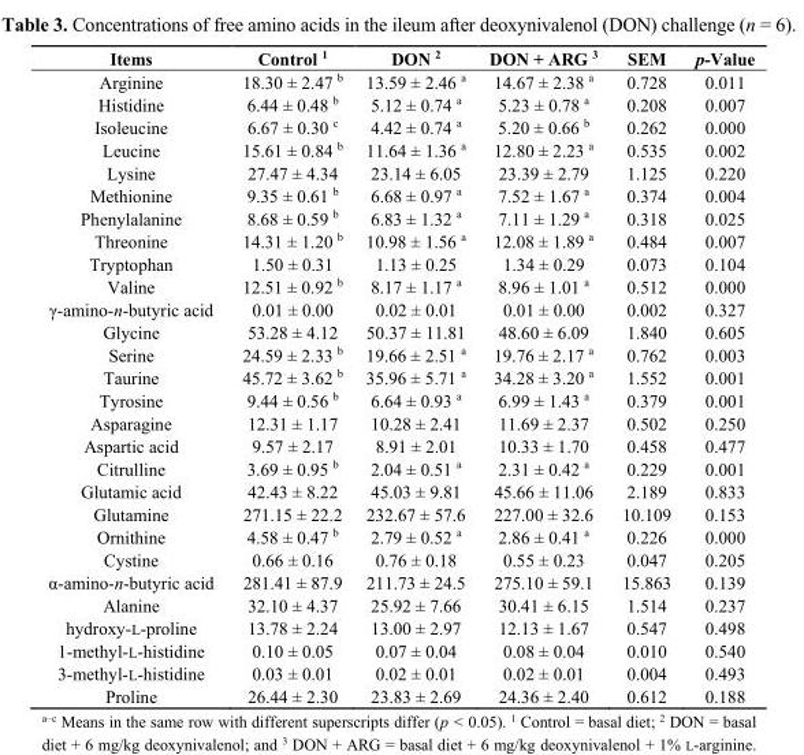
<table><thead><tr><td>Items</td><td>Control <sup>1</sup></td><td>DON <sup>2</sup></td><td>DON + ARG <sup>3</sup></td><td>SEM</td><td>p-Value</td></tr></thead><tbody><tr><td>Arginine</td><td>18.30 ± 2.47 <sup>b</sup></td><td>13.59 ± 2.46 <sup>a</sup></td><td>14.67 ± 2.38 <sup>a</sup></td><td>0.728</td><td>0.011</td></tr><tr><td>Histidine</td><td>6.44 ± 0.48 <sup>b</sup></td><td>5.12 ± 0.74 <sup>a</sup></td><td>5.23 ± 0.78 <sup>a</sup></td><td>0.208</td><td>0.007</td></tr><tr><td>Isoleucine</td><td>6.67 ± 0.30 <sup>c</sup></td><td>4.42 ± 0.74 <sup>a</sup></td><td>5.20 ± 0.66 <sup>b</sup></td><td>0.262</td><td>0.000</td></tr><tr><td>Leucine</td><td>15.61 ± 0.84 <sup>b</sup></td><td>11.64 ± 1.36 <sup>a</sup></td><td>12.80 ± 2.23 <sup>a</sup></td><td>0.535</td><td>0.002</td></tr><tr><td>Lysine</td><td>27.47 ± 4.34</td><td>23.14 ± 6.05</td><td>23.39 ± 2.79</td><td>1.125</td><td>0.220</td></tr><tr><td>Methionine</td><td>9.35 ± 0.61 <sup>b</sup></td><td>6.68 ± 0.97 <sup>a</sup></td><td>7.52 ± 1.67 <sup>a</sup></td><td>0.374</td><td>0.004</td></tr><tr><td>Phenylalanine</td><td>8.68 ± 0.59 <sup>b</sup></td><td>6.83 ± 1.32 <sup>a</sup></td><td>7.11 ± 1.29 <sup>a</sup></td><td>0.318</td><td>0.025</td></tr><tr><td>Threonine</td><td>14.31 ± 1.20 <sup>b</sup></td><td>10.98 ± 1.56 <sup>a</sup></td><td>12.08 ± 1.89 <sup>a</sup></td><td>0.484</td><td>0.007</td></tr><tr><td>Tryptophan</td><td>1.50 ± 0.31</td><td>1.13 ± 0.25</td><td>1.34 ± 0.29</td><td>0.073</td><td>0.104</td></tr><tr><td>Valine</td><td>12.51 ± 0.92 <sup>b</sup></td><td>8.17 ± 1.17 <sup>a</sup></td><td>8.96 ± 1.01 <sup>a</sup></td><td>0.512</td><td>0.000</td></tr><tr><td>γ-amino-n-butyric acid</td><td>0.01 ± 0.00</td><td>0.02 ± 0.01</td><td>0.01 ± 0.00</td><td>0.002</td><td>0.327</td></tr><tr><td>Glycine</td><td>53.28 ± 4.12</td><td>50.37 ± 11.81</td><td>48.60 ± 6.09</td><td>1.840</td><td>0.605</td></tr><tr><td>Serine</td><td>24.59 ± 2.33 <sup>b</sup></td><td>19.66 ± 2.51 <sup>a</sup></td><td>19.76 ± 2.17 <sup>a</sup></td><td>0.762</td><td>0.003</td></tr><tr><td>Taurine</td><td>45.72 ± 3.62 <sup>b</sup></td><td>35.96 ± 5.71 <sup>a</sup></td><td>34.28 ± 3.20 <sup>a</sup></td><td>1.552</td><td>0.001</td></tr><tr><td>Tyrosine</td><td>9.44 ± 0.56 <sup>b</sup></td><td>6.64 ± 0.93 <sup>a</sup></td><td>6.99 ± 1.43 <sup>a</sup></td><td>0.379</td><td>0.001</td></tr><tr><td>Asparagine</td><td>12.31 ± 1.17</td><td>10.28 ± 2.41</td><td>11.69 ± 2.37</td><td>0.502</td><td>0.250</td></tr><tr><td>Aspartic acid</td><td>9.57 ± 2.17</td><td>8.91 ± 2.01</td><td>10.33 ± 1.70</td><td>0.458</td><td>0.477</td></tr><tr><td>Citrulline</td><td>3.69 ± 0.95 <sup>b</sup></td><td>2.04 ± 0.51 <sup>a</sup></td><td>2.31 ± 0.42 <sup>a</sup></td><td>0.229</td><td>0.001</td></tr><tr><td>Glutamic acid</td><td>42.43 ± 8.22</td><td>45.03 ± 9.81</td><td>45.66 ± 11.06</td><td>2.189</td><td>0.833</td></tr><tr><td>Glutamine</td><td>271.15 ± 22.2</td><td>232.67 ± 57.6</td><td>227.00 ± 32.6</td><td>10.109</td><td>0.153</td></tr><tr><td>Ornithine</td><td>4.58 ± 0.47 <sup>b</sup></td><td>2.79 ± 0.52 <sup>a</sup></td><td>2.86 ± 0.41 <sup>a</sup></td><td>0.226</td><td>0.000</td></tr><tr><td>Cystine</td><td>0.66 ± 0.16</td><td>0.76 ± 0.18</td><td>0.55 ± 0.23</td><td>0.047</td><td>0.205</td></tr><tr><td>α-amino-n-butyric acid</td><td>281.41 ± 87.9</td><td>211.73 ± 24.5</td><td>275.10 ± 59.1</td><td>15.863</td><td>0.139</td></tr><tr><td>Alanine</td><td>32.10 ± 4.37</td><td>25.92 ± 7.66</td><td>30.41 ± 6.15</td><td>1.514</td><td>0.237</td></tr><tr><td>hydroxy-L-proline</td><td>13.78 ± 2.24</td><td>13.00 ± 2.97</td><td>12.13 ± 1.67</td><td>0.547</td><td>0.498</td></tr><tr><td>1-methyl-L-histidine</td><td>0.10 ± 0.05</td><td>0.07 ± 0.04</td><td>0.08 ± 0.04</td><td>0.010</td><td>0.540</td></tr><tr><td>3-methyl-L-histidine</td><td>0.03 ± 0.01</td><td>0.02 ± 0.01</td><td>0.02 ± 0.01</td><td>0.004</td><td>0.493</td></tr><tr><td>Proline</td><td>26.44 ± 2.30</td><td>23.83 ± 2.69</td><td>24.36 ± 2.40</td><td>0.612</td><td>0.188</td></tr></tbody></table>